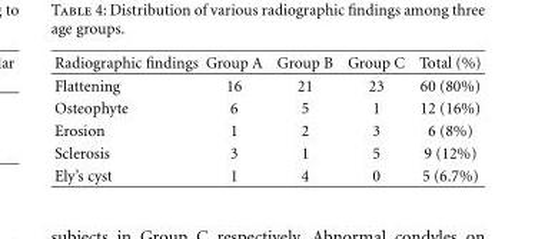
<table><thead><tr><td>Radiographic findings</td><td>Group A</td><td>Group B</td><td>Group C</td><td>Total (%)</td></tr></thead><tbody><tr><td>Flattening</td><td>16</td><td>21</td><td>23</td><td>60 (80%)</td></tr><tr><td>Osteophyte</td><td>6</td><td>5</td><td>1</td><td>12 (16%)</td></tr><tr><td>Erosion</td><td>1</td><td>2</td><td>3</td><td>6 (8%)</td></tr><tr><td>Sclerosis</td><td>3</td><td>1</td><td>5</td><td>9 (12%)</td></tr><tr><td>Ely’s cyst</td><td>1</td><td>4</td><td>0</td><td>5 (6.7%)</td></tr></tbody></table>